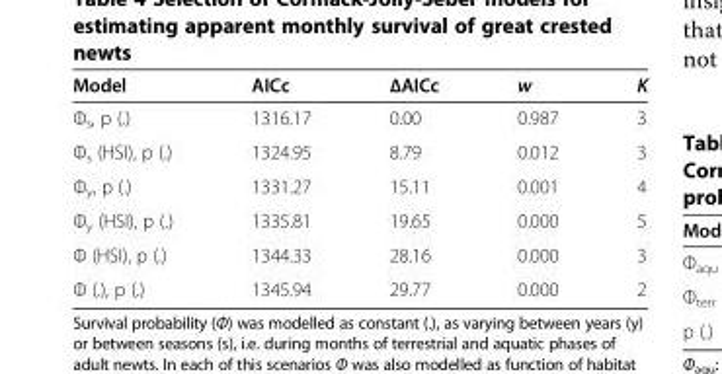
<table><thead><tr><td>Model</td><td>AICc</td><td>ΔAICc</td><td>w</td><td>K</td></tr></thead><tbody><tr><td>Φ<sub>s</sub>, p (.)</td><td>1316.17</td><td>0.00</td><td>0.987</td><td>3</td></tr><tr><td>Φ<sub>s</sub> (HSI), p (.)</td><td>1324.95</td><td>8.79</td><td>0.012</td><td>3</td></tr><tr><td>Φ<sub>y</sub>, p (.)</td><td>1331.27</td><td>15.11</td><td>0.001</td><td>4</td></tr><tr><td>Φ<sub>y</sub> (HSI), p (.)</td><td>1335.81</td><td>19.65</td><td>0.000</td><td>5</td></tr><tr><td>Φ (HSI), p (.)</td><td>1344.33</td><td>28.16</td><td>0.000</td><td>3</td></tr><tr><td>Φ (.), p (.)</td><td>1345.94</td><td>29.77</td><td>0.000</td><td>2</td></tr></tbody></table>